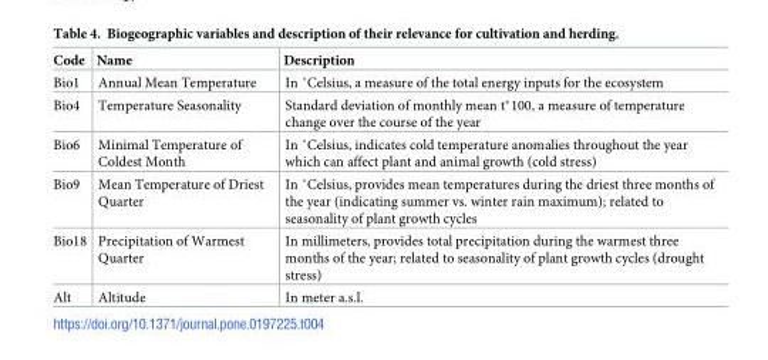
<table><thead><tr><td>Code</td><td>Name</td><td>Description</td></tr></thead><tbody><tr><td>Bio1</td><td>Annual Mean Temperature</td><td>In ˚Celsius, a measure of the total energy inputs for the ecosystem</td></tr><tr><td>Bio4</td><td>Temperature Seasonality</td><td>Standard deviation of monthly mean t*100, a measure of temperature change over the course of the year</td></tr><tr><td>Bio6</td><td>Minimal Temperature of Coldest Month</td><td>In ˚Celsius, indicates cold temperature anomalies throughout the year which can affect plant and animal growth (cold stress)</td></tr><tr><td>Bio9</td><td>Mean Temperature of Driest Quarter</td><td>In ˚Celsius, provides mean temperatures during the driest three months of the year (indicating summer vs. winter rain maximum); related to seasonality of plant growth cycles</td></tr><tr><td>Bio18</td><td>Precipitation of Warmest Quarter</td><td>In millimeters, provides total precipitation during the warmest three months of the year; related to seasonality of plant growth cycles (drought stress)</td></tr><tr><td>Alt</td><td>Altitude</td><td>In meter a.s.l.</td></tr></tbody></table>